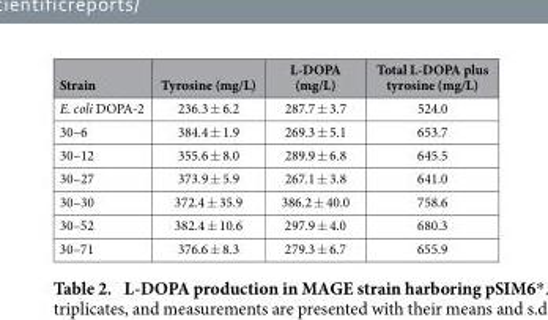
<table><thead><tr><td>Strain</td><td>Tyrosine (mg/L)</td><td>L-DOPA (mg/L)</td><td>Total L-DOPA plus tyrosine (mg/L)</td></tr></thead><tbody><tr><td>E. coli DOPA-2</td><td>236.3 ± 6.2</td><td>287.7 ± 3.7</td><td>524.0</td></tr><tr><td>30–6</td><td>384.4 ± 1.9</td><td>269.3 ± 5.1</td><td>653.7</td></tr><tr><td>30–12</td><td>355.6 ± 8.0</td><td>289.9 ± 6.8</td><td>645.5</td></tr><tr><td>30–27</td><td>373.9 ± 5.9</td><td>267.1 ± 3.8</td><td>641.0</td></tr><tr><td>30–30</td><td>372.4 ± 35.9</td><td>386.2 ± 40.0</td><td>758.6</td></tr><tr><td>30–52</td><td>382.4 ± 10.6</td><td>297.9 ± 4.0</td><td>680.3</td></tr><tr><td>30–71</td><td>376.6 ± 8.3</td><td>279.3 ± 6.7</td><td>655.9</td></tr></tbody></table>